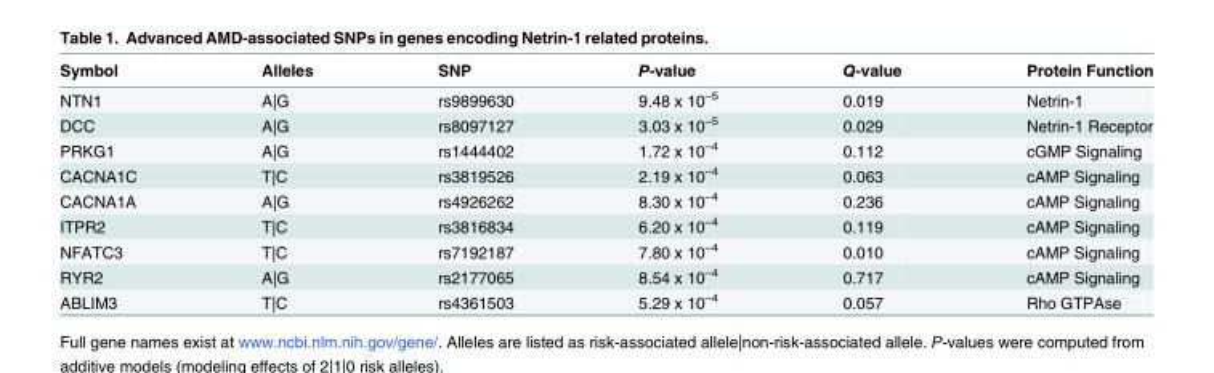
<table><thead><tr><td>Symbol</td><td>Alleles</td><td>SNP</td><td>P-value</td><td>Q-value</td><td>Protein Function</td></tr></thead><tbody><tr><td>NTN1</td><td>A|G</td><td>rs9899630</td><td>9.48 x 10<sup>–5</sup></td><td>0.019</td><td>Netrin-1</td></tr><tr><td>DCC</td><td>A|G</td><td>rs8097127</td><td>3.03 x 10<sup>–5</sup></td><td>0.029</td><td>Netrin-1 Receptor</td></tr><tr><td>PRKG1</td><td>A|G</td><td>rs1444402</td><td>1.72 x 10<sup>–4</sup></td><td>0.112</td><td>cGMP Signaling</td></tr><tr><td>CACNA1C</td><td>T|C</td><td>rs3819526</td><td>2.19 x 10<sup>–4</sup></td><td>0.063</td><td>cAMP Signaling</td></tr><tr><td>CACNA1A</td><td>A|G</td><td>rs4926262</td><td>8.30 x 10<sup>–4</sup></td><td>0.236</td><td>cAMP Signaling</td></tr><tr><td>ITPR2</td><td>T|C</td><td>rs3816834</td><td>6.20 x 10<sup>–4</sup></td><td>0.119</td><td>cAMP Signaling</td></tr><tr><td>NFATC3</td><td>T|C</td><td>rs7192187</td><td>7.80 x 10<sup>–4</sup></td><td>0.010</td><td>cAMP Signaling</td></tr><tr><td>RYR2</td><td>A|G</td><td>rs2177065</td><td>8.54 x 10<sup>–4</sup></td><td>0.717</td><td>cAMP Signaling</td></tr><tr><td>ABLIM3</td><td>T|C</td><td>rs4361503</td><td>5.29 x 10<sup>–4</sup></td><td>0.057</td><td>Rho GTPAse</td></tr></tbody></table>